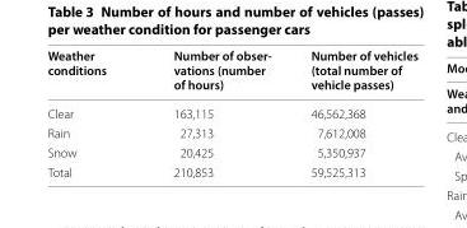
<table><thead><tr><td>Weather conditions</td><td>Number of obser- vations (number of hours)</td><td>Number of vehicles (total number of vehicle passes)</td></tr></thead><tbody><tr><td>Clear</td><td>163,115</td><td>46,562,368</td></tr><tr><td>Rain</td><td>27,313</td><td>7,612,008</td></tr><tr><td>Snow</td><td>20,425</td><td>5,350,937</td></tr><tr><td>Total</td><td>210,853</td><td>59,525,313</td></tr></tbody></table>